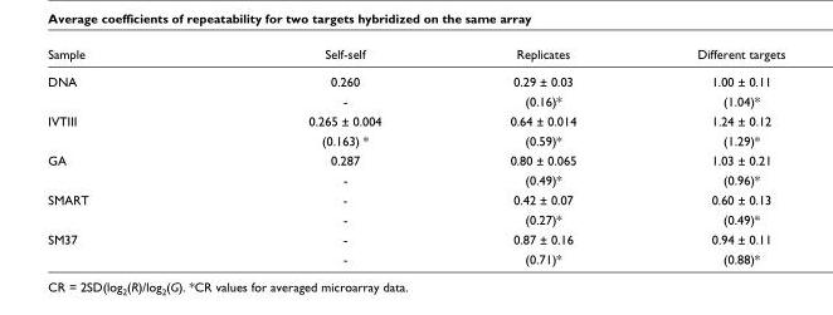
<table><thead><tr><td>Sample</td><td>Self-self</td><td>Replicates</td><td>Different targets</td></tr></thead><tbody><tr><td rowspan="2">DNA</td><td>0.260</td><td>0.29 ± 0.03</td><td>1.00 ± 0.11</td></tr><tr><td>-</td><td>(0.16)*</td><td>(1.04)*</td></tr><tr><td rowspan="2">IVTIII</td><td>0.265 ± 0.004</td><td>0.64 ± 0.014</td><td>1.24 ± 0.12</td></tr><tr><td>(0.163) *</td><td>(0.59)*</td><td>(1.29)*</td></tr><tr><td rowspan="2">GA</td><td>0.287</td><td>0.80 ± 0.065</td><td>1.03 ± 0.21</td></tr><tr><td>-</td><td>(0.49)*</td><td>(0.96)*</td></tr><tr><td rowspan="2">SMART</td><td>-</td><td>0.42 ± 0.07</td><td>0.60 ± 0.13</td></tr><tr><td>-</td><td>(0.27)*</td><td>(0.49)*</td></tr><tr><td rowspan="2">SM37</td><td>-</td><td>0.87 ± 0.16</td><td>0.94 ± 0.11</td></tr><tr><td>-</td><td>(0.71)*</td><td>(0.88)*</td></tr></tbody></table>